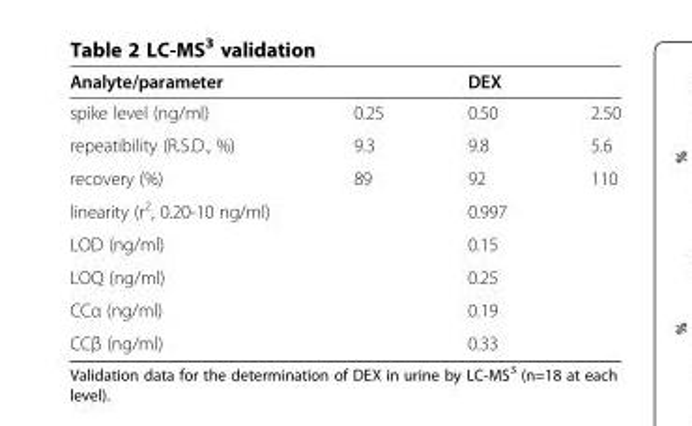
<table><thead><tr><td>Analyte/parameter</td><td></td><td>DEX</td><td></td></tr></thead><tbody><tr><td>spike level (ng/ml)</td><td>0.25</td><td>0.50</td><td>2.50</td></tr><tr><td>repeatibility (R.S.D., %)</td><td>9.3</td><td>9.8</td><td>5.6</td></tr><tr><td>recovery (%)</td><td>89</td><td>92</td><td>110</td></tr><tr><td>linearity (r<sup>2</sup>, 0.20-10 ng/ml)</td><td></td><td>0.997</td><td></td></tr><tr><td>LOD (ng/ml)</td><td></td><td>0.15</td><td></td></tr><tr><td>LOQ (ng/ml)</td><td></td><td>0.25</td><td></td></tr><tr><td>CCα (ng/ml)</td><td></td><td>0.19</td><td></td></tr><tr><td>CCβ (ng/ml)</td><td></td><td>0.33</td><td></td></tr></tbody></table>